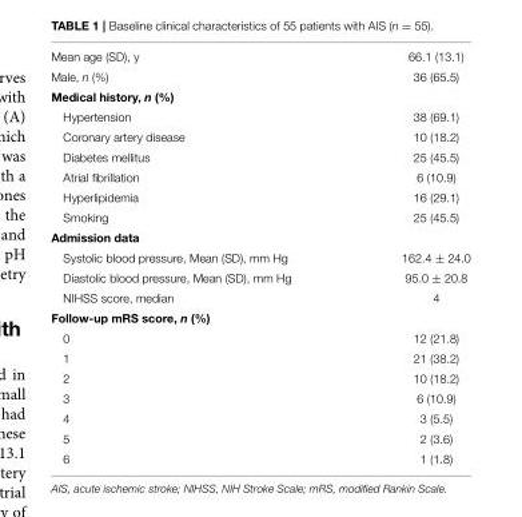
<table><tbody><tr><td>Mean age (SD), y</td><td>66.1 (13.1)</td></tr><tr><td>Male, n (%)</td><td>36 (65.5)</td></tr><tr><td colspan="2">Medical history, n (%)</td></tr><tr><td>Hypertension</td><td>38 (69.1)</td></tr><tr><td>Coronary artery disease</td><td>10 (18.2)</td></tr><tr><td>Diabetes mellitus</td><td>25 (45.5)</td></tr><tr><td>Atrial fibrillation</td><td>6 (10.9)</td></tr><tr><td>Hyperlipidemia</td><td>16 (29.1)</td></tr><tr><td>Smoking</td><td>25 (45.5)</td></tr><tr><td colspan="2">Admission data</td></tr><tr><td>Systolic blood pressure, Mean (SD), mm Hg</td><td>162.4 ± 24.0</td></tr><tr><td>Diastolic blood pressure, Mean (SD), mm Hg</td><td>95.0 ± 20.8</td></tr><tr><td>NIHSS score, median</td><td>4</td></tr><tr><td colspan="2">Follow-up mRS score, n (%)</td></tr><tr><td>0</td><td>12 (21.8)</td></tr><tr><td>1</td><td>21 (38.2)</td></tr><tr><td>2</td><td>10 (18.2)</td></tr><tr><td>3</td><td>6 (10.9)</td></tr><tr><td>4</td><td>3 (5.5)</td></tr><tr><td>5</td><td>2 (3.6)</td></tr><tr><td>6</td><td>1 (1.8)</td></tr></tbody></table>